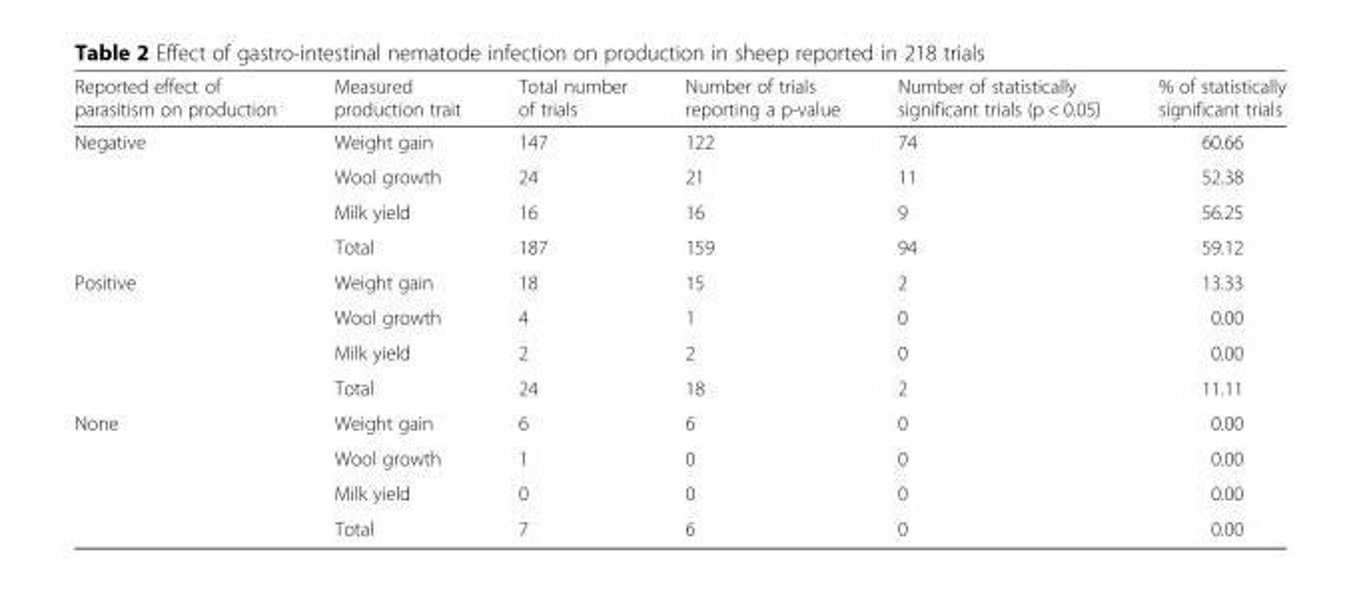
<table><thead><tr><td>Reported effect of parasitism on production</td><td>Measured production trait</td><td>Total number of trials</td><td>Number of trials reporting a p-value</td><td>Number of statistically significant trials (p &lt; 0.05)</td><td>% of statistically significant trials</td></tr></thead><tbody><tr><td rowspan="4">Negative</td><td>Weight gain</td><td>147</td><td>122</td><td>74</td><td>60.66</td></tr><tr><td>Wool growth</td><td>24</td><td>21</td><td>11</td><td>52.38</td></tr><tr><td>Milk yield</td><td>16</td><td>16</td><td>9</td><td>56.25</td></tr><tr><td>Total</td><td>187</td><td>159</td><td>94</td><td>59.12</td></tr><tr><td rowspan="4">Positive</td><td>Weight gain</td><td>18</td><td>15</td><td>2</td><td>13.33</td></tr><tr><td>Wool growth</td><td>4</td><td>1</td><td>0</td><td>0.00</td></tr><tr><td>Milk yield</td><td>2</td><td>2</td><td>0</td><td>0.00</td></tr><tr><td>Total</td><td>24</td><td>18</td><td>2</td><td>11.11</td></tr><tr><td rowspan="4">None</td><td>Weight gain</td><td>6</td><td>6</td><td>0</td><td>0.00</td></tr><tr><td>Wool growth</td><td>1</td><td>0</td><td>0</td><td>0.00</td></tr><tr><td>Milk yield</td><td>0</td><td>0</td><td>0</td><td>0.00</td></tr><tr><td>Total</td><td>7</td><td>6</td><td>0</td><td>0.00</td></tr></tbody></table>